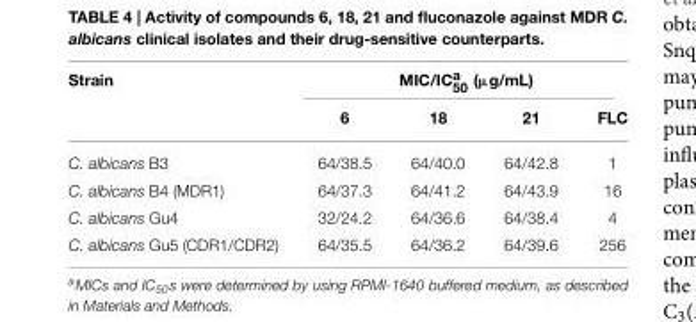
<table><thead><tr><td rowspan="2">Strain</td><td colspan="4">MIC/IC<sup>a</sup> <sub>50</sub> (µg/mL)</td></tr><tr><td>6</td><td>18</td><td>21</td><td>FLC</td></tr></thead><tbody><tr><td>C. albicans B3</td><td>64/38.5</td><td>64/40.0</td><td>64/42.8</td><td>1</td></tr><tr><td>C. albicans B4 (MDR1)</td><td>64/37.3</td><td>64/41.2</td><td>64/43.9</td><td>16</td></tr><tr><td>C. albicans Gu4</td><td>32/24.2</td><td>64/36.6</td><td>64/38.4</td><td>4</td></tr><tr><td>C. albicans Gu5 (CDR1/CDR2)</td><td>64/35.5</td><td>64/36.2</td><td>64/39.6</td><td>256</td></tr></tbody></table>